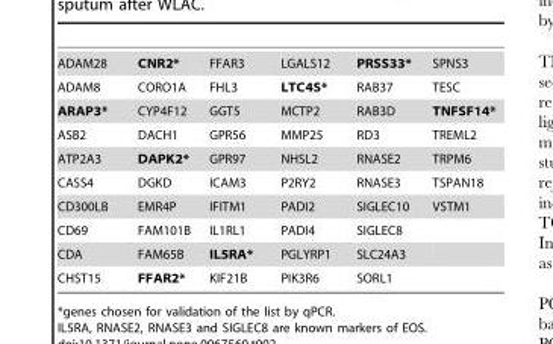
<table><tbody><tr><td>ADAM28</td><td>CNR2*</td><td>FFAR3</td><td>LGALS12</td><td>PRSS33*</td><td>SPNS3</td></tr><tr><td>ADAM8</td><td>CORO1A</td><td>FHL3</td><td>LTC4S*</td><td>RAB37</td><td>TESC</td></tr><tr><td>ARAP3*</td><td>CYP4F12</td><td>GGT5</td><td>MCTP2</td><td>RAB3D</td><td>TNFSF14*</td></tr><tr><td>ASB2</td><td>DACH1</td><td>GPR56</td><td>MMP25</td><td>RD3</td><td>TREML2</td></tr><tr><td>ATP2A3</td><td>DAPK2*</td><td>GPR97</td><td>NHSL2</td><td>RNASE2</td><td>TRPM6</td></tr><tr><td>CASS4</td><td>DGKD</td><td>ICAM3</td><td>P2RY2</td><td>RNASE3</td><td>TSPAN18</td></tr><tr><td>CD300LB</td><td>EMR4P</td><td>IFITM1</td><td>PADI2</td><td>SIGLEC10</td><td>VSTM1</td></tr><tr><td>CD69</td><td>FAM101B</td><td>IL1RL1</td><td>PADI4</td><td>SIGLEC8</td><td></td></tr><tr><td>CDA</td><td>FAM65B</td><td>IL5RA*</td><td>PGLYRP1</td><td>SLC24A3</td><td></td></tr><tr><td>CHST15</td><td>FFAR2*</td><td>KIF21B</td><td>PIK3R6</td><td>SORL1</td><td></td></tr></tbody></table>